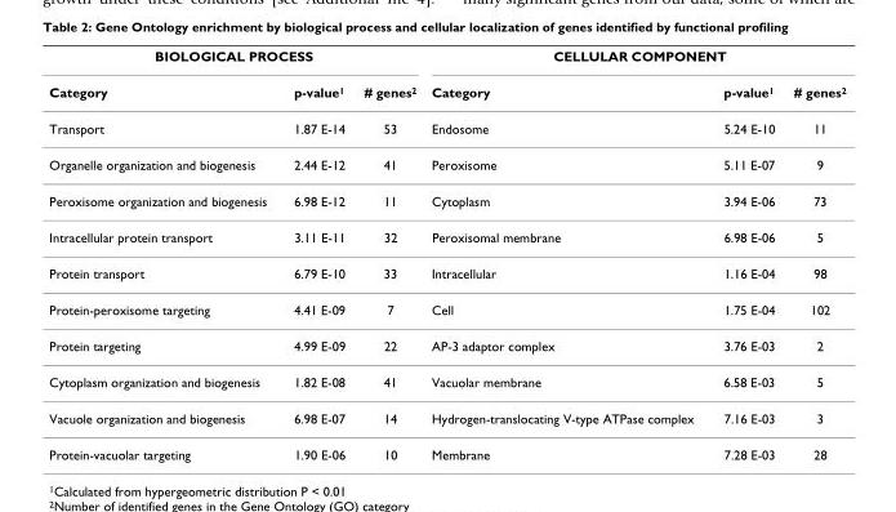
<table><thead><tr><td colspan="3">BIOLOGICAL PROCESS</td><td colspan="3">CELLULAR COMPONENT</td></tr><tr><td>Category</td><td>p-value<sup>1</sup></td><td># genes<sup>2</sup></td><td>Category</td><td>p-value<sup>1</sup></td><td># genes<sup>2</sup></td></tr></thead><tbody><tr><td>Transport</td><td>1.87 E-14</td><td>53</td><td>Endosome</td><td>5.24 E-10</td><td>11</td></tr><tr><td>Organelle organization and biogenesis</td><td>2.44 E-12</td><td>41</td><td>Peroxisome</td><td>5.11 E-07</td><td>9</td></tr><tr><td>Peroxisome organization and biogenesis</td><td>6.98 E-12</td><td>11</td><td>Cytoplasm</td><td>3.94 E-06</td><td>73</td></tr><tr><td>Intracellular protein transport</td><td>3.11 E-11</td><td>32</td><td>Peroxisomal membrane</td><td>6.98 E-06</td><td>5</td></tr><tr><td>Protein transport</td><td>6.79 E-10</td><td>33</td><td>Intracellular</td><td>1.16 E-04</td><td>98</td></tr><tr><td>Protein-peroxisome targeting</td><td>4.41 E-09</td><td>7</td><td>Cell</td><td>1.75 E-04</td><td>102</td></tr><tr><td>Protein targeting</td><td>4.99 E-09</td><td>22</td><td>AP-3 adaptor complex</td><td>3.76 E-03</td><td>2</td></tr><tr><td>Cytoplasm organization and biogenesis</td><td>1.82 E-08</td><td>41</td><td>Vacuolar membrane</td><td>6.58 E-03</td><td>5</td></tr><tr><td>Vacuole organization and biogenesis</td><td>6.98 E-07</td><td>14</td><td>Hydrogen-translocating V-type ATPase complex</td><td>7.16 E-03</td><td>3</td></tr><tr><td>Protein-vacuolar targeting</td><td>1.90 E-06</td><td>10</td><td>Membrane</td><td>7.28 E-03</td><td>28</td></tr></tbody></table>